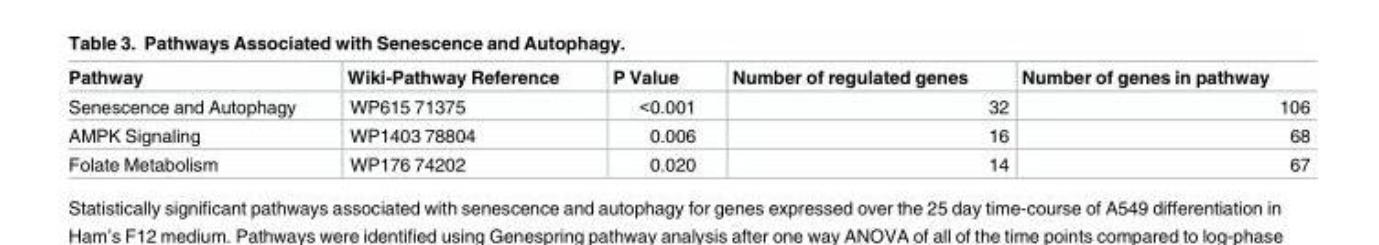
<table><thead><tr><td>Pathway</td><td>Wiki-Pathway Reference</td><td>P Value</td><td>Number of regulated genes</td><td>Number of genes in pathway</td></tr></thead><tbody><tr><td>Senescence and Autophagy</td><td>WP615 71375</td><td>&lt;0.001</td><td>32</td><td>106</td></tr><tr><td>AMPK Signaling</td><td>WP1403 78804</td><td>0.006</td><td>16</td><td>68</td></tr><tr><td>Folate Metabolism</td><td>WP176 74202</td><td>0.020</td><td>14</td><td>67</td></tr></tbody></table>